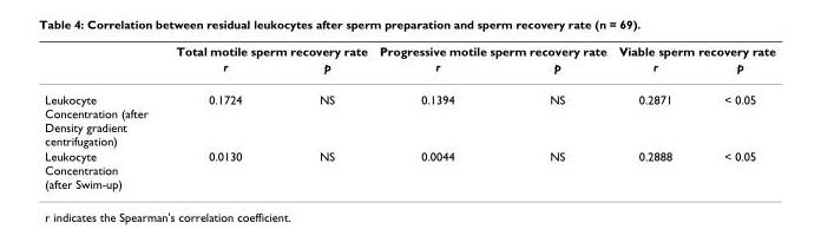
<table><thead><tr><td rowspan="2"></td><td colspan="2">Total motile sperm recovery rate</td><td colspan="2">Progressive motile sperm recovery rate</td><td colspan="2">Viable sperm recovery rate</td></tr><tr><td>r</td><td>p</td><td>r</td><td>p</td><td>r</td><td>p</td></tr></thead><tbody><tr><td>Leukocyte Concentration (after Density gradient centrifugation)</td><td>0.1724</td><td>NS</td><td>0.1394</td><td>NS</td><td>0.2871</td><td>&lt; 0.05</td></tr><tr><td>Leukocyte Concentration (after Swim-up)</td><td>0.0130</td><td>NS</td><td>0.0044</td><td>NS</td><td>0.2888</td><td>&lt; 0.05</td></tr></tbody></table>